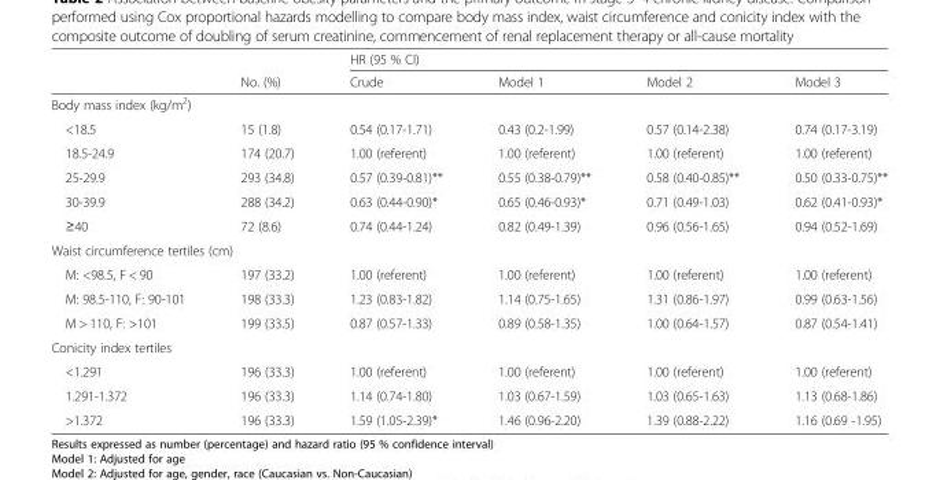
<table><thead><tr><td rowspan="2"></td><td rowspan="2">No. (%)</td><td colspan="4">HR (95 % CI)</td></tr><tr><td>Crude</td><td>Model 1</td><td>Model 2</td><td>Model 3</td></tr></thead><tbody><tr><td colspan="6">Body mass index (kg/m<sup>2</sup>)</td></tr><tr><td>&lt;18.5</td><td>15 (1.8)</td><td>0.54 (0.17-1.71)</td><td>0.43 (0.2-1.99)</td><td>0.57 (0.14-2.38)</td><td>0.74 (0.17-3.19)</td></tr><tr><td>18.5-24.9</td><td>174 (20.7)</td><td>1.00 (referent)</td><td>1.00 (referent)</td><td>1.00 (referent)</td><td>1.00 (referent)</td></tr><tr><td>25-29.9</td><td>293 (34.8)</td><td>0.57 (0.39-0.81)**</td><td>0.55 (0.38-0.79)**</td><td>0.58 (0.40-0.85)**</td><td>0.50 (0.33-0.75)**</td></tr><tr><td>30-39.9</td><td>288 (34.2)</td><td>0.63 (0.44-0.90)*</td><td>0.65 (0.46-0.93)*</td><td>0.71 (0.49-1.03)</td><td>0.62 (0.41-0.93)*</td></tr><tr><td>≥40</td><td>72 (8.6)</td><td>0.74 (0.44-1.24)</td><td>0.82 (0.49-1.39)</td><td>0.96 (0.56-1.65)</td><td>0.94 (0.52-1.69)</td></tr><tr><td colspan="6">Waist circumference tertiles (cm)</td></tr><tr><td>M: &lt;98.5, F &lt; 90</td><td>197 (33.2)</td><td>1.00 (referent)</td><td>1.00 (referent)</td><td>1.00 (referent)</td><td>1.00 (referent)</td></tr><tr><td>M: 98.5-110, F: 90-101</td><td>198 (33.3)</td><td>1.23 (0.83-1.82)</td><td>1.14 (0.75-1.65)</td><td>1.31 (0.86-1.97)</td><td>0.99 (0.63-1.56)</td></tr><tr><td>M &gt; 110, F: &gt;101</td><td>199 (33.5)</td><td>0.87 (0.57-1.33)</td><td>0.89 (0.58-1.35)</td><td>1.00 (0.64-1.57)</td><td>0.87 (0.54-1.41)</td></tr><tr><td colspan="6">Conicity index tertiles</td></tr><tr><td>&lt;1.291</td><td>196 (33.3)</td><td>1.00 (referent)</td><td>1.00 (referent)</td><td>1.00 (referent)</td><td>1.00 (referent)</td></tr><tr><td>1.291-1.372</td><td>196 (33.3)</td><td>1.14 (0.74-1.80)</td><td>1.03 (0.67-1.59)</td><td>1.03 (0.65-1.63)</td><td>1.13 (0.68-1.86)</td></tr><tr><td>&gt;1.372</td><td>196 (33.3)</td><td>1.59 (1.05-2.39)*</td><td>1.46 (0.96-2.20)</td><td>1.39 (0.88-2.22)</td><td>1.16 (0.69 -1.95)</td></tr></tbody></table>